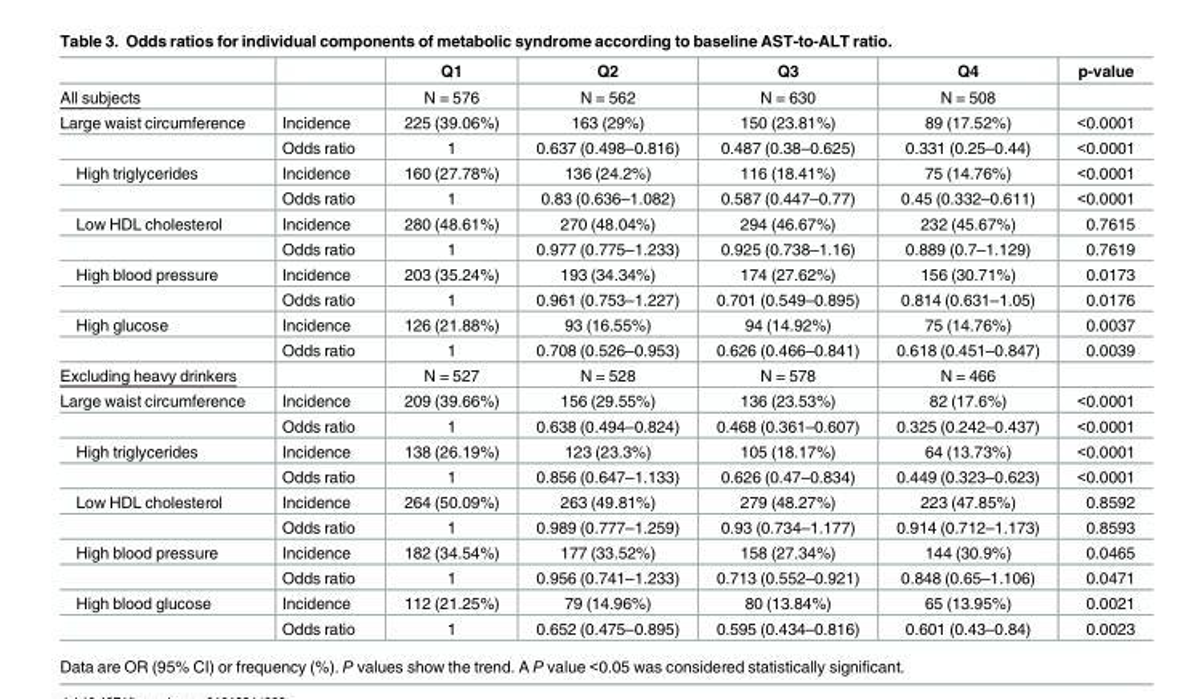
<table><thead><tr><td></td><td></td><td>Q1</td><td>Q2</td><td>Q3</td><td>Q4</td><td>p-value</td></tr></thead><tbody><tr><td>All subjects</td><td></td><td>N = 576</td><td>N = 562</td><td>N = 630</td><td>N = 508</td><td></td></tr><tr><td rowspan="2">Large waist circumference</td><td>Incidence</td><td>225 (39.06%)</td><td>163 (29%)</td><td>150 (23.81%)</td><td>89 (17.52%)</td><td>&lt;0.0001</td></tr><tr><td>Odds ratio</td><td>1</td><td>0.637 (0.498–0.816)</td><td>0.487 (0.38–0.625)</td><td>0.331 (0.25–0.44)</td><td>&lt;0.0001</td></tr><tr><td rowspan="2">High triglycerides</td><td>Incidence</td><td>160 (27.78%)</td><td>136 (24.2%)</td><td>116 (18.41%)</td><td>75 (14.76%)</td><td>&lt;0.0001</td></tr><tr><td>Odds ratio</td><td>1</td><td>0.83 (0.636–1.082)</td><td>0.587 (0.447–0.77)</td><td>0.45 (0.332–0.611)</td><td>&lt;0.0001</td></tr><tr><td rowspan="2">Low HDL cholesterol</td><td>Incidence</td><td>280 (48.61%)</td><td>270 (48.04%)</td><td>294 (46.67%)</td><td>232 (45.67%)</td><td>0.7615</td></tr><tr><td>Odds ratio</td><td>1</td><td>0.977 (0.775–1.233)</td><td>0.925 (0.738–1.16)</td><td>0.889 (0.7–1.129)</td><td>0.7619</td></tr><tr><td rowspan="2">High blood pressure</td><td>Incidence</td><td>203 (35.24%)</td><td>193 (34.34%)</td><td>174 (27.62%)</td><td>156 (30.71%)</td><td>0.0173</td></tr><tr><td>Odds ratio</td><td>1</td><td>0.961 (0.753–1.227)</td><td>0.701 (0.549–0.895)</td><td>0.814 (0.631–1.05)</td><td>0.0176</td></tr><tr><td rowspan="2">High glucose</td><td>Incidence</td><td>126 (21.88%)</td><td>93 (16.55%)</td><td>94 (14.92%)</td><td>75 (14.76%)</td><td>0.0037</td></tr><tr><td>Odds ratio</td><td>1</td><td>0.708 (0.526–0.953)</td><td>0.626 (0.466–0.841)</td><td>0.618 (0.451–0.847)</td><td>0.0039</td></tr><tr><td>Excluding heavy drinkers</td><td></td><td>N = 527</td><td>N = 528</td><td>N = 578</td><td>N = 466</td><td></td></tr><tr><td rowspan="2">Large waist circumference</td><td>Incidence</td><td>209 (39.66%)</td><td>156 (29.55%)</td><td>136 (23.53%)</td><td>82 (17.6%)</td><td>&lt;0.0001</td></tr><tr><td>Odds ratio</td><td>1</td><td>0.638 (0.494–0.824)</td><td>0.468 (0.361–0.607)</td><td>0.325 (0.242–0.437)</td><td>&lt;0.0001</td></tr><tr><td rowspan="2">High triglycerides</td><td>Incidence</td><td>138 (26.19%)</td><td>123 (23.3%)</td><td>105 (18.17%)</td><td>64 (13.73%)</td><td>&lt;0.0001</td></tr><tr><td>Odds ratio</td><td>1</td><td>0.856 (0.647–1.133)</td><td>0.626 (0.47–0.834)</td><td>0.449 (0.323–0.623)</td><td>&lt;0.0001</td></tr><tr><td rowspan="2">Low HDL cholesterol</td><td>Incidence</td><td>264 (50.09%)</td><td>263 (49.81%)</td><td>279 (48.27%)</td><td>223 (47.85%)</td><td>0.8592</td></tr><tr><td>Odds ratio</td><td>1</td><td>0.989 (0.777–1.259)</td><td>0.93 (0.734–1.177)</td><td>0.914 (0.712–1.173)</td><td>0.8593</td></tr><tr><td rowspan="2">High blood pressure</td><td>Incidence</td><td>182 (34.54%)</td><td>177 (33.52%)</td><td>158 (27.34%)</td><td>144 (30.9%)</td><td>0.0465</td></tr><tr><td>Odds ratio</td><td>1</td><td>0.956 (0.741–1.233)</td><td>0.713 (0.552–0.921)</td><td>0.848 (0.65–1.106)</td><td>0.0471</td></tr><tr><td rowspan="2">High blood glucose</td><td>Incidence</td><td>112 (21.25%)</td><td>79 (14.96%)</td><td>80 (13.84%)</td><td>65 (13.95%)</td><td>0.0021</td></tr><tr><td>Odds ratio</td><td>1</td><td>0.652 (0.475–0.895)</td><td>0.595 (0.434–0.816)</td><td>0.601 (0.43–0.84)</td><td>0.0023</td></tr></tbody></table>